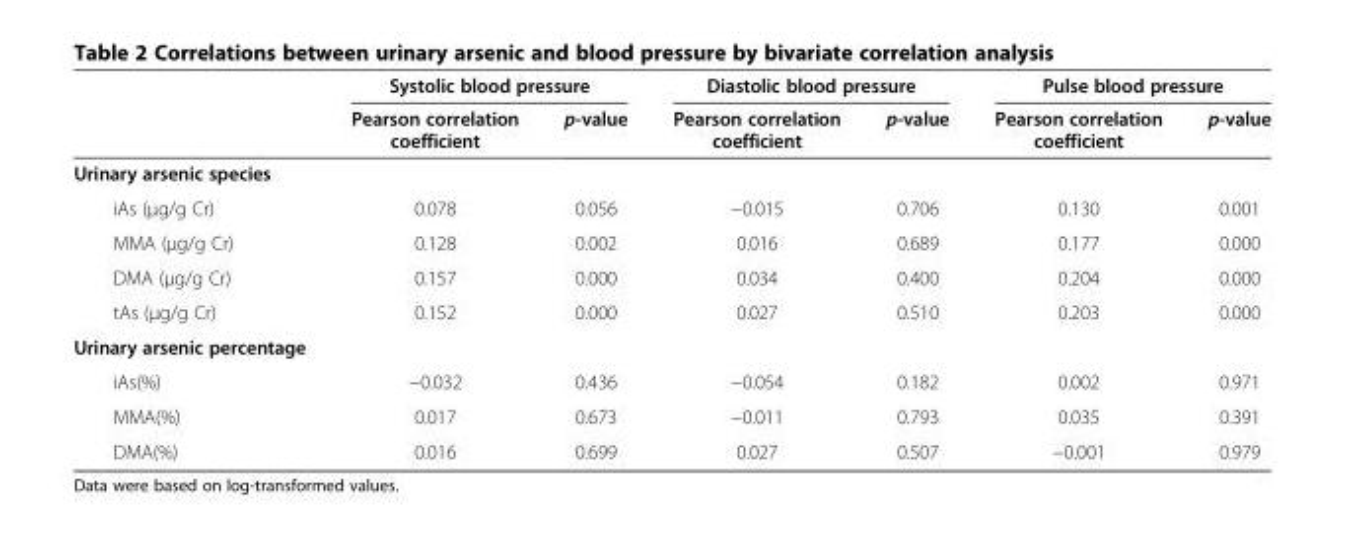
<table><thead><tr><td rowspan="2"></td><td colspan="2">Systolic blood pressure</td><td colspan="2">Diastolic blood pressure</td><td colspan="2">Pulse blood pressure</td></tr><tr><td>Pearson correlation coefficient</td><td>p-value</td><td>Pearson correlation coefficient</td><td>p-value</td><td>Pearson correlation coefficient</td><td>p-value</td></tr></thead><tbody><tr><td colspan="7">Urinary arsenic species</td></tr><tr><td>iAs (μg/g Cr)</td><td>0.078</td><td>0.056</td><td>−0.015</td><td>0.706</td><td>0.130</td><td>0.001</td></tr><tr><td>MMA (μg/g Cr)</td><td>0.128</td><td>0.002</td><td>0.016</td><td>0.689</td><td>0.177</td><td>0.000</td></tr><tr><td>DMA (μg/g Cr)</td><td>0.157</td><td>0.000</td><td>0.034</td><td>0.400</td><td>0.204</td><td>0.000</td></tr><tr><td>tAs (μg/g Cr)</td><td>0.152</td><td>0.000</td><td>0.027</td><td>0.510</td><td>0.203</td><td>0.000</td></tr><tr><td colspan="7">Urinary arsenic percentage</td></tr><tr><td>iAs(%)</td><td>−0.032</td><td>0.436</td><td>−0.054</td><td>0.182</td><td>0.002</td><td>0.971</td></tr><tr><td>MMA(%)</td><td>0.017</td><td>0.673</td><td>−0.011</td><td>0.793</td><td>0.035</td><td>0.391</td></tr><tr><td>DMA(%)</td><td>0.016</td><td>0.699</td><td>0.027</td><td>0.507</td><td>−0.001</td><td>0.979</td></tr></tbody></table>